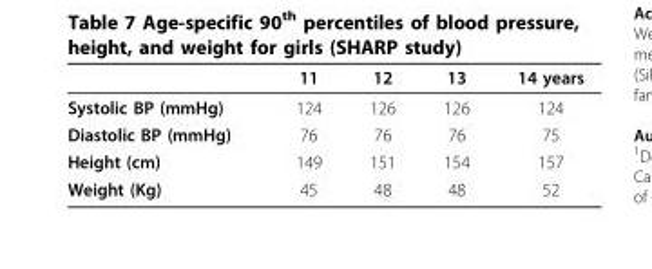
<table><thead><tr><td></td><td>11</td><td>12</td><td>13</td><td>14 years</td></tr></thead><tbody><tr><td>Systolic BP (mmHg)</td><td>124</td><td>126</td><td>126</td><td>124</td></tr><tr><td>Diastolic BP (mmHg)</td><td>76</td><td>76</td><td>76</td><td>75</td></tr><tr><td>Height (cm)</td><td>149</td><td>151</td><td>154</td><td>157</td></tr><tr><td>Weight (Kg)</td><td>45</td><td>48</td><td>48</td><td>52</td></tr></tbody></table>